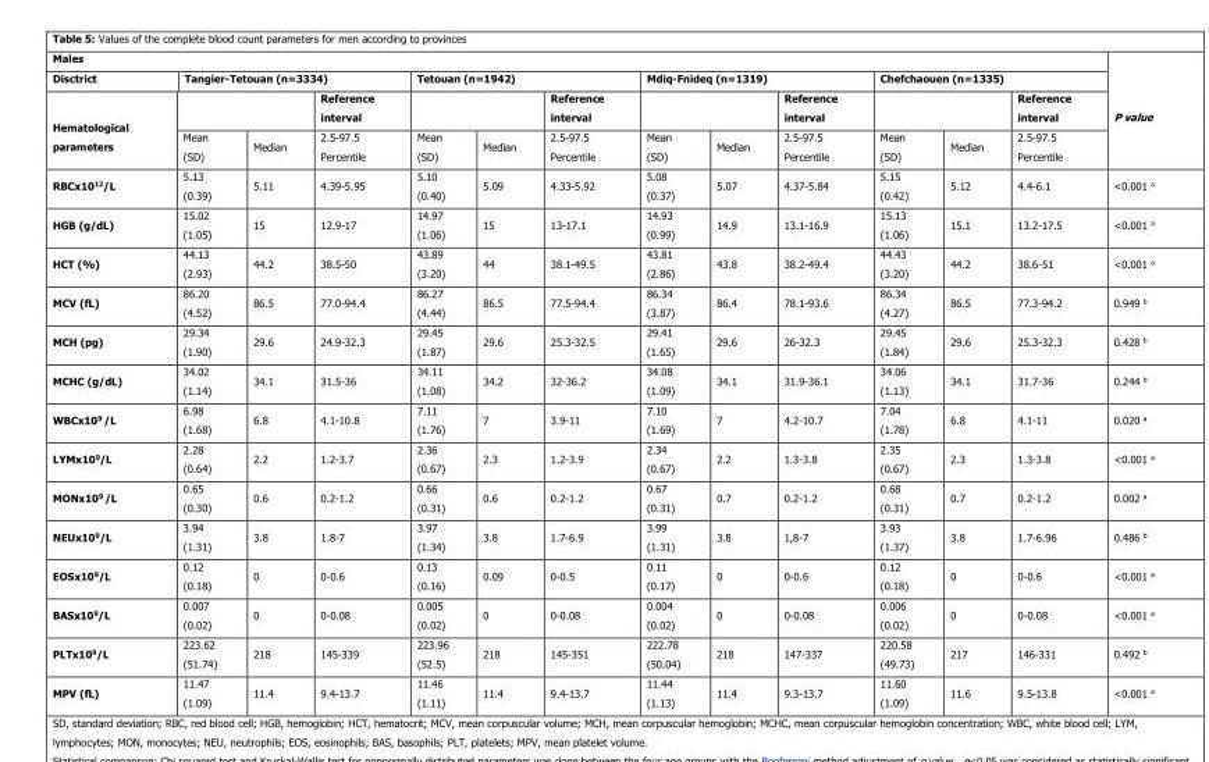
<table><thead><tr><td colspan="13">Males</td><td rowspan="4">P value</td></tr><tr><td rowspan="3">Disctrict Hematological parameters</td><td colspan="3">Tangier-Tetouan (n=3334)</td><td colspan="3">Tetouan (n=1942)</td><td colspan="3">Mdiq-Fnideq (n=1319)</td><td colspan="3">Chefchaouen (n=1335)</td></tr><tr><td rowspan="2">Mean (SD)</td><td rowspan="2">Median</td><td rowspan="2">Reference interval 2.5-97.5 Percentile</td><td rowspan="2">Mean (SD)</td><td rowspan="2">Median</td><td rowspan="2">Reference interval 2.5-97.5 Percentile</td><td rowspan="2">Mean (SD)</td><td rowspan="2">Median</td><td rowspan="2">Reference interval 2.5-97.5 Percentile</td><td rowspan="2">Mean (SD)</td><td rowspan="2">Median</td><td rowspan="2">Reference interval 2.5-97.5 Percentile</td></tr><tr></tr></thead><tbody><tr><td>RBCx10<sup>12</sup>/L</td><td>5.13 (0.39)</td><td>5.11</td><td>4.39-5.95</td><td>5.10 (0.40)</td><td>5.09</td><td>4.33-5.92</td><td>5.08 (0.37)</td><td>5.07</td><td>4.37-5.84</td><td>5.15 (0.42)</td><td>5.12</td><td>4.4-6.1</td><td>&lt;0.001 <sup>a</sup></td></tr><tr><td>HGB (g/dL)</td><td>15.02 (1.05)</td><td>15</td><td>12.9-17</td><td>14.97 (1.06)</td><td>15</td><td>13-17.1</td><td>14.93 (0.99)</td><td>14.9</td><td>13.1-16.9</td><td>15.13 (1.06)</td><td>15.1</td><td>13.2-17.5</td><td>&lt;0.001 <sup>a</sup></td></tr><tr><td>HCT (%)</td><td>44.13 (2.93)</td><td>44.2</td><td>38.5-50</td><td>43.89 (3.20)</td><td>44</td><td>38.1-49.5</td><td>43.81 (2.86)</td><td>43.8</td><td>38.2-49.4</td><td>44.43 (3.20)</td><td>44.2</td><td>38.6-51</td><td>&lt;0.001 <sup>a</sup></td></tr><tr><td>MCV (fL)</td><td>86.20 (4.52)</td><td>86.5</td><td>77.0-94.4</td><td>86.27 (4.44)</td><td>86.5</td><td>77.5-94.4</td><td>86.34 (3.87)</td><td>86.4</td><td>78.1-93.6</td><td>86.34 (4.27)</td><td>86.5</td><td>77.3-94.2</td><td>0.949 <sup>b</sup></td></tr><tr><td>MCH (pg)</td><td>29.34 (1.90)</td><td>29.6</td><td>24.9-32.3</td><td>29.45 (1.87)</td><td>29.6</td><td>25.3-32.5</td><td>29.41 (1.65)</td><td>29.6</td><td>26-32.3</td><td>29.45 (1.84)</td><td>29.6</td><td>25.3-32.3</td><td>0.428 <sup>b</sup></td></tr><tr><td>MCHC (g/dL)</td><td>34.02 (1.14)</td><td>34.1</td><td>31.5-36</td><td>34.11 (1.08)</td><td>34.2</td><td>32-36.2</td><td>34.08 (1.09)</td><td>34.1</td><td>31.9-36.1</td><td>34.06 (1.13)</td><td>34.1</td><td>31.7-36</td><td>0.244 <sup>b</sup></td></tr><tr><td>WBCx10<sup>9</sup> /L</td><td>6.98 (1.68)</td><td>6.8</td><td>4.1-10.8</td><td>7.11 (1.76)</td><td>7</td><td>3.9-11</td><td>7.10 (1.69)</td><td>7</td><td>4.2-10.7</td><td>7.04 (1.78)</td><td>6.8</td><td>4.1-11</td><td>0.020 <sup>a</sup></td></tr><tr><td>LYMx10<sup>9</sup>/L</td><td>2.28 (0.64)</td><td>2.2</td><td>1.2-3.7</td><td>2.36 (0.67)</td><td>2.3</td><td>1.2-3.9</td><td>2.34 (0.67)</td><td>2.2</td><td>1.3-3.8</td><td>2.35 (0.67)</td><td>2.3</td><td>1.3-3.8</td><td>&lt;0.001 <sup>a</sup></td></tr><tr><td>MONx10<sup>9</sup> /L</td><td>0.65 (0.30)</td><td>0.6</td><td>0.2-1.2</td><td>0.66 (0.31)</td><td>0.6</td><td>0.2-1.2</td><td>0.67 (0.31)</td><td>0.7</td><td>0.2-1.2</td><td>0.68 (0.31)</td><td>0.7</td><td>0.2-1.2</td><td>0.002 <sup>a</sup></td></tr><tr><td>NEUx10<sup>9</sup>/L</td><td>3.94 (1.31)</td><td>3.8</td><td>1.8-7</td><td>3.97 (1.34)</td><td>3.8</td><td>1.7-6.9</td><td>3.99 (1.31)</td><td>3.8</td><td>1,8-7</td><td>3.93 (1.37)</td><td>3.8</td><td>1.7-6.96</td><td>0.486 <sup>b</sup></td></tr><tr><td>EOSx10<sup>9</sup>/L</td><td>0.12 (0.18)</td><td>0</td><td>0-0.6</td><td>0.13 (0.16)</td><td>0.09</td><td>0-0.5</td><td>0.11 (0.17)</td><td>0</td><td>0-0.6</td><td>0.12 (0.18)</td><td>0</td><td>0-0.6</td><td>&lt;0.001 <sup>a</sup></td></tr><tr><td>BASx10<sup>9</sup>/L</td><td>0.007 (0.02)</td><td>0</td><td>0-0.08</td><td>0.005 (0.02)</td><td>0</td><td>0-0.08</td><td>0.004 (0.02)</td><td>0</td><td>0-0.08</td><td>0.006 (0.02)</td><td>0</td><td>0-0.08</td><td>&lt;0.001 <sup>a</sup></td></tr><tr><td>PLTx10<sup>9</sup>/L</td><td>223.62 (51.74)</td><td>218</td><td>145-339</td><td>223.96 (52.5)</td><td>218</td><td>145-351</td><td>222.78 (50.04)</td><td>218</td><td>147-337</td><td>220.58 (49.73)</td><td>217</td><td>146-331</td><td>0.492 <sup>b</sup></td></tr><tr><td>MPV (fL)</td><td>11.47 (1.09)</td><td>11.4</td><td>9.4-13.7</td><td>11.46 (1.11)</td><td>11.4</td><td>9.4-13.7</td><td>11.44 (1.13)</td><td>11.4</td><td>9.3-13.7</td><td>11.60 (1.09)</td><td>11.6</td><td>9.5-13.8</td><td>&lt;0.001 <sup>a</sup></td></tr></tbody></table>